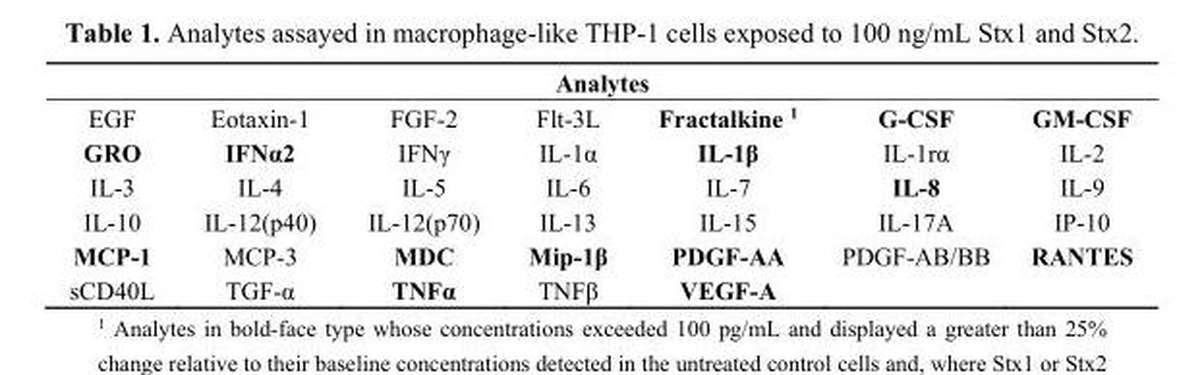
<table><thead><tr><td colspan="7">Analytes</td></tr><tr><td>EGF</td><td>Eotaxin-1</td><td>FGF-2</td><td>Flt-3L</td><td>Fractalkine <sup>1</sup></td><td>G-CSF</td><td>GM-CSF</td></tr></thead><tbody><tr><td>GRO</td><td>IFNα2</td><td>IFNγ</td><td>IL-1α</td><td>IL-1β</td><td>IL-1rα</td><td>IL-2</td></tr><tr><td>IL-3</td><td>IL-4</td><td>IL-5</td><td>IL-6</td><td>IL-7</td><td>IL-8</td><td>IL-9</td></tr><tr><td>IL-10</td><td>IL-12(p40)</td><td>IL-12(p70)</td><td>IL-13</td><td>IL-15</td><td>IL-17A</td><td>IP-10</td></tr><tr><td>MCP-1</td><td>MCP-3</td><td>MDC</td><td>Mip-1β</td><td>PDGF-AA</td><td>PDGF-AB/BB</td><td>RANTES</td></tr><tr><td>sCD40L</td><td>TGF-α</td><td>TNFα</td><td>TNFβ</td><td>VEGF-A</td><td></td><td></td></tr></tbody></table>